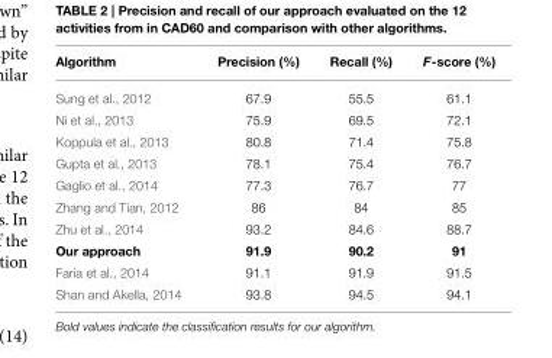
<table><thead><tr><td>Algorithm</td><td>Precision (%)</td><td>Recall (%)</td><td>F-score (%)</td></tr></thead><tbody><tr><td>Sung et al., 2012</td><td>67.9</td><td>55.5</td><td>61.1</td></tr><tr><td>Ni et al., 2013</td><td>75.9</td><td>69.5</td><td>72.1</td></tr><tr><td>Koppula et al., 2013</td><td>80.8</td><td>71.4</td><td>75.8</td></tr><tr><td>Gupta et al., 2013</td><td>78.1</td><td>75.4</td><td>76.7</td></tr><tr><td>Gaglio et al., 2014</td><td>77.3</td><td>76.7</td><td>77</td></tr><tr><td>Zhang and Tian, 2012</td><td>86</td><td>84</td><td>85</td></tr><tr><td>Zhu et al., 2014</td><td>93.2</td><td>84.6</td><td>88.7</td></tr><tr><td>Our approach</td><td>91.9</td><td>90.2</td><td>91</td></tr><tr><td>Faria et al., 2014</td><td>91.1</td><td>91.9</td><td>91.5</td></tr><tr><td>Shan and Akella, 2014</td><td>93.8</td><td>94.5</td><td>94.1</td></tr></tbody></table>